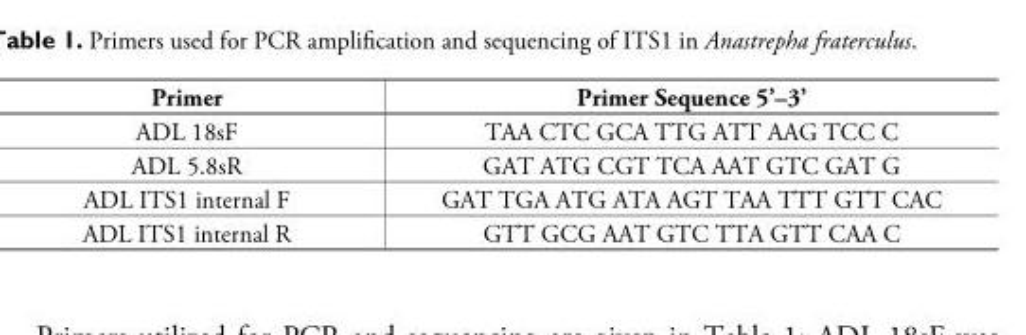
<table><thead><tr><td>Primer</td><td>Primer Sequence 5’–3’</td></tr></thead><tbody><tr><td>ADL 18sF</td><td>TAA CTC GCA TTG ATT AAG TCC C</td></tr><tr><td>ADL 5.8sR</td><td>GAT ATG CGT TCA AAT GTC GAT G</td></tr><tr><td>ADL ITS1 internal F</td><td>GAT TGA ATG ATA AGT TAA TTT GTT CAC</td></tr><tr><td>ADL ITS1 internal R</td><td>GTT GCG AAT GTC TTA GTT CAA C</td></tr></tbody></table>